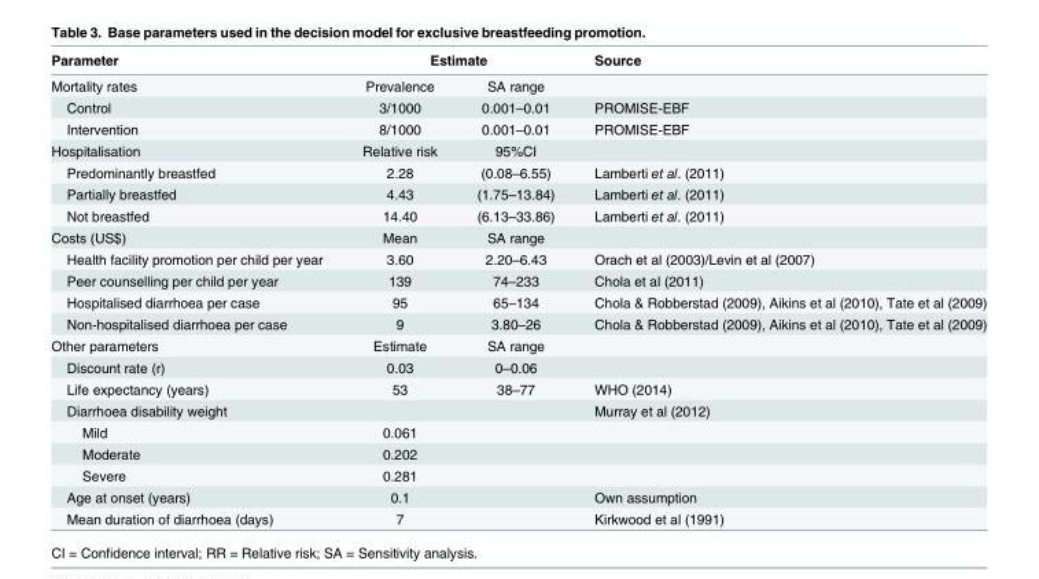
<table><thead><tr><td rowspan="2">Parameter Mortality rates</td><td colspan="2">Estimate</td><td rowspan="2">Source</td></tr><tr><td>Prevalence</td><td>SA range</td></tr></thead><tbody><tr><td>Control</td><td>3/1000</td><td>0.001–0.01</td><td>PROMISE-EBF</td></tr><tr><td>Intervention</td><td>8/1000</td><td>0.001–0.01</td><td>PROMISE-EBF</td></tr><tr><td>Hospitalisation</td><td>Relative risk</td><td>95%CI</td><td></td></tr><tr><td>Predominantly breastfed</td><td>2.28</td><td>(0.08–6.55)</td><td>Lamberti et al. (2011)</td></tr><tr><td>Partially breastfed</td><td>4.43</td><td>(1.75–13.84)</td><td>Lamberti et al. (2011)</td></tr><tr><td>Not breastfed</td><td>14.40</td><td>(6.13–33.86)</td><td>Lamberti et al. (2011)</td></tr><tr><td>Costs (US$)</td><td>Mean</td><td>SA range</td><td></td></tr><tr><td>Health facility promotion per child per year</td><td>3.60</td><td>2.20–6.43</td><td>Orach et al (2003)/Levin et al (2007)</td></tr><tr><td>Peer counselling per child per year</td><td>139</td><td>74–233</td><td>Chola et al (2011)</td></tr><tr><td>Hospitalised diarrhoea per case</td><td>95</td><td>65–134</td><td>Chola &amp; Robberstad (2009), Aikins et al (2010), Tate et al (2009)</td></tr><tr><td>Non-hospitalised diarrhoea per case</td><td>9</td><td>3.80–26</td><td>Chola &amp; Robberstad (2009), Aikins et al (2010), Tate et al (2009)</td></tr><tr><td>Other parameters</td><td>Estimate</td><td>SA range</td><td></td></tr><tr><td>Discount rate (r)</td><td>0.03</td><td>0–0.06</td><td></td></tr><tr><td>Life expectancy (years)</td><td>53</td><td>38–77</td><td>WHO (2014)</td></tr><tr><td>Diarrhoea disability weight</td><td></td><td></td><td>Murray et al (2012)</td></tr><tr><td>Mild</td><td>0.061</td><td></td><td></td></tr><tr><td>Moderate</td><td>0.202</td><td></td><td></td></tr><tr><td>Severe</td><td>0.281</td><td></td><td></td></tr><tr><td>Age at onset (years)</td><td>0.1</td><td></td><td>Own assumption</td></tr><tr><td>Mean duration of diarrhoea (days)</td><td>7</td><td></td><td>Kirkwood et al (1991)</td></tr></tbody></table>